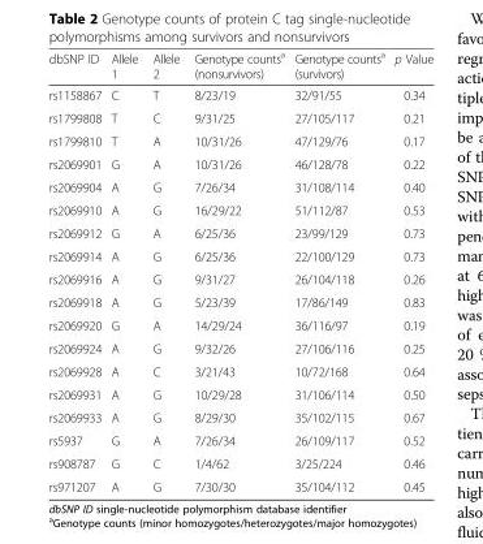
<table><thead><tr><td>dbSNP ID</td><td>Allele 1</td><td>Allele 2</td><td>Genotype counts<sup>a</sup> (nonsurvivors)</td><td>Genotype counts<sup>a</sup> (survivors)</td><td>p Value</td></tr></thead><tbody><tr><td>rs1158867</td><td>C</td><td>T</td><td>8/23/19</td><td>32/91/55</td><td>0.34</td></tr><tr><td>rs1799808</td><td>T</td><td>C</td><td>9/31/25</td><td>27/105/117</td><td>0.21</td></tr><tr><td>rs1799810</td><td>T</td><td>A</td><td>10/31/26</td><td>47/129/76</td><td>0.17</td></tr><tr><td>rs2069901</td><td>G</td><td>A</td><td>10/31/26</td><td>46/128/78</td><td>0.22</td></tr><tr><td>rs2069904</td><td>A</td><td>G</td><td>7/26/34</td><td>31/108/114</td><td>0.40</td></tr><tr><td>rs2069910</td><td>A</td><td>G</td><td>16/29/22</td><td>51/112/87</td><td>0.53</td></tr><tr><td>rs2069912</td><td>G</td><td>A</td><td>6/25/36</td><td>23/99/129</td><td>0.73</td></tr><tr><td>rs2069914</td><td>A</td><td>G</td><td>6/25/36</td><td>22/100/129</td><td>0.73</td></tr><tr><td>rs2069916</td><td>A</td><td>G</td><td>9/31/27</td><td>26/104/118</td><td>0.26</td></tr><tr><td>rs2069918</td><td>A</td><td>G</td><td>5/23/39</td><td>17/86/149</td><td>0.83</td></tr><tr><td>rs2069920</td><td>G</td><td>A</td><td>14/29/24</td><td>36/116/97</td><td>0.19</td></tr><tr><td>rs2069924</td><td>A</td><td>G</td><td>9/32/26</td><td>27/106/116</td><td>0.25</td></tr><tr><td>rs2069928</td><td>A</td><td>C</td><td>3/21/43</td><td>10/72/168</td><td>0.64</td></tr><tr><td>rs2069931</td><td>A</td><td>G</td><td>10/29/28</td><td>31/106/114</td><td>0.50</td></tr><tr><td>rs2069933</td><td>A</td><td>G</td><td>8/29/30</td><td>35/102/115</td><td>0.67</td></tr><tr><td>rs5937</td><td>G</td><td>A</td><td>7/26/34</td><td>26/109/117</td><td>0.52</td></tr><tr><td>rs908787</td><td>G</td><td>C</td><td>1/4/62</td><td>3/25/224</td><td>0.46</td></tr><tr><td>rs971207</td><td>A</td><td>G</td><td>7/30/30</td><td>35/104/112</td><td>0.45</td></tr></tbody></table>